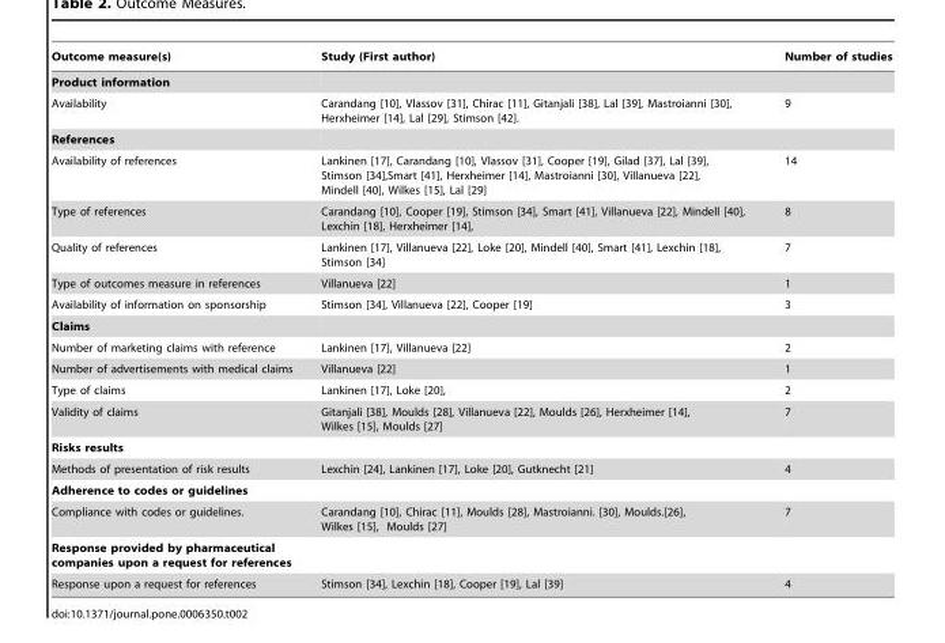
<table><thead><tr><td>Outcome measure(s)</td><td>Study (First author)</td><td>Number of studies</td></tr></thead><tbody><tr><td colspan="3">Product information</td></tr><tr><td>Availability</td><td>Carandang [10], Vlassov [31], Chirac [11], Gitanjali [38], Lal [39], Mastroianni [30], Herxheimer [14], Lal [29], Stimson [42].</td><td>9</td></tr><tr><td colspan="3">References</td></tr><tr><td>Availability of references</td><td>Lankinen [17], Carandang [10], Vlassov [31], Cooper [19], Gilad [37], Lal [39], Stimson [34],Smart [41], Herxheimer [14], Mastroianni [30], Villanueva [22], Mindell [40], Wilkes [15], Lal [29]</td><td>14</td></tr><tr><td>Type of references</td><td>Carandang [10], Cooper [19], Stimson [34], Smart [41], Villanueva [22], Mindell [40], Lexchin [18], Herxheimer [14],</td><td>8</td></tr><tr><td>Quality of references</td><td>Lankinen [17], Villanueva [22], Loke [20], Mindell [40], Smart [41], Lexchin [18], Stimson [34]</td><td>7</td></tr><tr><td>Type of outcomes measure in references</td><td>Villanueva [22]</td><td>1</td></tr><tr><td>Availability of information on sponsorship</td><td>Stimson [34], Villanueva [22], Cooper [19]</td><td>3</td></tr><tr><td colspan="3">Claims</td></tr><tr><td>Number of marketing claims with reference</td><td>Lankinen [17], Villanueva [22]</td><td>2</td></tr><tr><td>Number of advertisements with medical claims</td><td>Villanueva [22]</td><td>1</td></tr><tr><td>Type of claims</td><td>Lankinen [17], Loke [20],</td><td>2</td></tr><tr><td>Validity of claims</td><td>Gitanjali [38], Moulds [28], Villanueva [22], Moulds [26], Herxheimer [14], Wilkes [15], Moulds [27]</td><td>7</td></tr><tr><td colspan="3">Risks results</td></tr><tr><td>Methods of presentation of risk results</td><td>Lexchin [24], Lankinen [17], Loke [20], Gutknecht [21]</td><td>4</td></tr><tr><td colspan="3">Adherence to codes or guidelines</td></tr><tr><td>Compliance with codes or guidelines.</td><td>Carandang [10], Chirac [11], Moulds [28], Mastroianni. [30], Moulds.[26], Wilkes [15], Moulds [27]</td><td>7</td></tr><tr><td colspan="3">Response provided by pharmaceutical companies upon a request for references</td></tr><tr><td>Response upon a request for references</td><td>Stimson [34], Lexchin [18], Cooper [19], Lal [39]</td><td>4</td></tr></tbody></table>